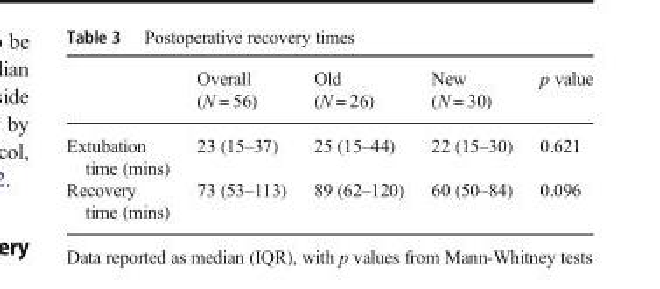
<table><thead><tr><td></td><td>Overall (N = 56)</td><td>Old (N = 26)</td><td>New (N = 30)</td><td>p value</td></tr></thead><tbody><tr><td>Extubation time (mins)</td><td>23 (15–37)</td><td>25 (15–44)</td><td>22 (15–30)</td><td>0.621</td></tr><tr><td>Recovery time (mins)</td><td>73 (53–113)</td><td>89 (62–120)</td><td>60 (50–84)</td><td>0.096</td></tr></tbody></table>